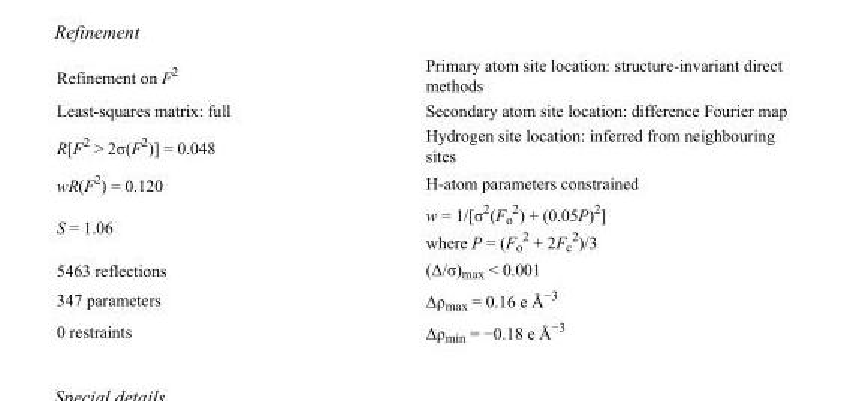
<table><tbody><tr><td>Refinement on F<sup>2</sup></td><td>Primary atom site location: structure-invariant direct methods</td></tr><tr><td>Least-squares matrix: full</td><td>Secondary atom site location: difference Fourier map</td></tr><tr><td>R[F<sup>2</sup> &gt; 2σ(F<sup>2</sup>)] = 0.048</td><td>Hydrogen site location: inferred from neighbouring sites</td></tr><tr><td>wR(F<sup>2</sup>) = 0.120</td><td>H-atom parameters constrained</td></tr><tr><td>S = 1.06</td><td>w = 1/[σ<sup>2</sup>(F<sub>o</sub> <sup>2</sup>) + (0.05P)<sup>2</sup>] where P = (F<sub>o</sub> <sup>2</sup> + 2F<sub>c</sub> <sup>2</sup>)/3</td></tr><tr><td>5463 reflections</td><td>(Δ/σ)<sub>max</sub> &lt; 0.001</td></tr><tr><td>347 parameters</td><td>Δρ<sub>max</sub> = 0.16 e Å<sup>−3</sup></td></tr><tr><td>0 restraints</td><td>Δρ<sub>min</sub> = −0.18 e Å<sup>−3</sup></td></tr></tbody></table>